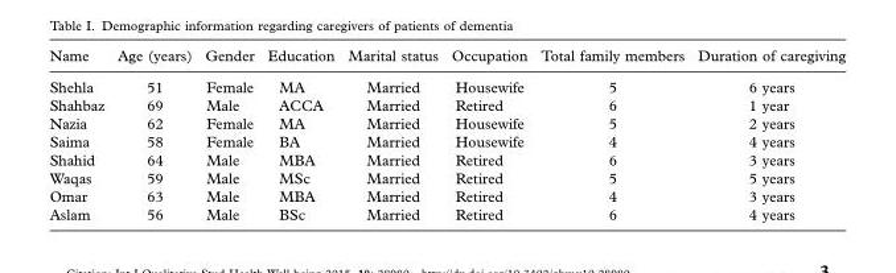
<table><thead><tr><td>Name</td><td>Age (years)</td><td>Gender</td><td>Education</td><td>Marital status</td><td>Occupation</td><td>Total family members</td><td>Duration of caregiving</td></tr></thead><tbody><tr><td>Shehla</td><td>51</td><td>Female</td><td>MA</td><td>Married</td><td>Housewife</td><td>5</td><td>6 years</td></tr><tr><td>Shahbaz</td><td>69</td><td>Male</td><td>ACCA</td><td>Married</td><td>Retired</td><td>6</td><td>1 year</td></tr><tr><td>Nazia</td><td>62</td><td>Female</td><td>MA</td><td>Married</td><td>Housewife</td><td>5</td><td>2 years</td></tr><tr><td>Saima</td><td>58</td><td>Female</td><td>BA</td><td>Married</td><td>Housewife</td><td>4</td><td>4 years</td></tr><tr><td>Shahid</td><td>64</td><td>Male</td><td>MBA</td><td>Married</td><td>Retired</td><td>6</td><td>3 years</td></tr><tr><td>Waqas</td><td>59</td><td>Male</td><td>MSc</td><td>Married</td><td>Retired</td><td>5</td><td>5 years</td></tr><tr><td>Omar</td><td>63</td><td>Male</td><td>MBA</td><td>Married</td><td>Retired</td><td>4</td><td>3 years</td></tr><tr><td>Aslam</td><td>56</td><td>Male</td><td>BSc</td><td>Married</td><td>Retired</td><td>6</td><td>4 years</td></tr></tbody></table>